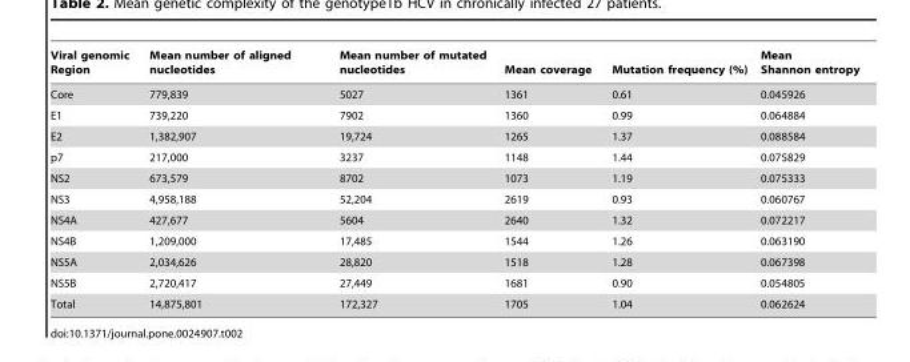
<table><thead><tr><td>Viral genomic Region</td><td>Mean number of aligned nucleotides</td><td>Mean number of mutated nucleotides</td><td>Mean coverage</td><td>Mutation frequency (%)</td><td>Mean Shannon entropy</td></tr></thead><tbody><tr><td>Core</td><td>779,839</td><td>5027</td><td>1361</td><td>0.61</td><td>0.045926</td></tr><tr><td>E1</td><td>739,220</td><td>7902</td><td>1360</td><td>0.99</td><td>0.064884</td></tr><tr><td>E2</td><td>1,382,907</td><td>19,724</td><td>1265</td><td>1.37</td><td>0.088584</td></tr><tr><td>p7</td><td>217,000</td><td>3237</td><td>1148</td><td>1.44</td><td>0.075829</td></tr><tr><td>NS2</td><td>673,579</td><td>8702</td><td>1073</td><td>1.19</td><td>0.075333</td></tr><tr><td>NS3</td><td>4,958,188</td><td>52,204</td><td>2619</td><td>0.93</td><td>0.060767</td></tr><tr><td>NS4A</td><td>427,677</td><td>5604</td><td>2640</td><td>1.32</td><td>0.072217</td></tr><tr><td>NS4B</td><td>1,209,000</td><td>17,485</td><td>1544</td><td>1.26</td><td>0.063190</td></tr><tr><td>NS5A</td><td>2,034,626</td><td>28,820</td><td>1518</td><td>1.28</td><td>0.067398</td></tr><tr><td>NS5B</td><td>2,720,417</td><td>27,449</td><td>1681</td><td>0.90</td><td>0.054805</td></tr><tr><td>Total</td><td>14,875,801</td><td>172,327</td><td>1705</td><td>1.04</td><td>0.062624</td></tr></tbody></table>